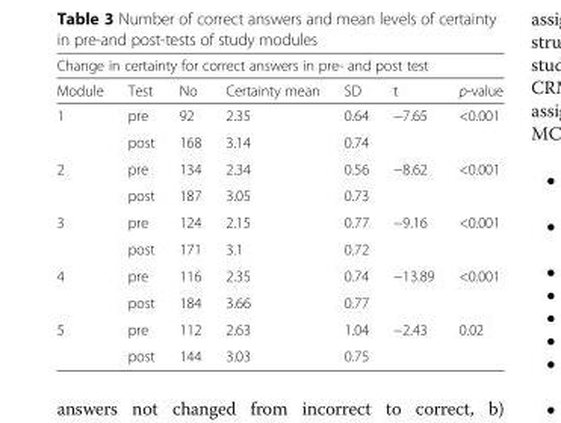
<table><thead><tr><td colspan="7">Change in certainty for correct answers in pre- and post test</td></tr><tr><td>Module</td><td>Test</td><td>No</td><td>Certainty mean</td><td>SD</td><td>t</td><td>p-value</td></tr></thead><tbody><tr><td rowspan="2">1</td><td>pre</td><td>92</td><td>2.35</td><td>0.64</td><td rowspan="2">−7.65</td><td rowspan="2">&lt;0.001</td></tr><tr><td>post</td><td>168</td><td>3.14</td><td>0.74</td></tr><tr><td rowspan="2">2</td><td>pre</td><td>134</td><td>2.34</td><td>0.56</td><td rowspan="2">−8.62</td><td rowspan="2">&lt;0.001</td></tr><tr><td>post</td><td>187</td><td>3.05</td><td>0.73</td></tr><tr><td rowspan="2">3</td><td>pre</td><td>124</td><td>2.15</td><td>0.77</td><td rowspan="2">−9.16</td><td rowspan="2">&lt;0.001</td></tr><tr><td>post</td><td>171</td><td>3.1</td><td>0.72</td></tr><tr><td rowspan="2">4</td><td>pre</td><td>116</td><td>2.35</td><td>0.74</td><td rowspan="2">−13.89</td><td rowspan="2">&lt;0.001</td></tr><tr><td>post</td><td>184</td><td>3.66</td><td>0.77</td></tr><tr><td rowspan="2">5</td><td>pre</td><td>112</td><td>2.63</td><td>1.04</td><td rowspan="2">−2.43</td><td rowspan="2">0.02</td></tr><tr><td>post</td><td>144</td><td>3.03</td><td>0.75</td></tr></tbody></table>